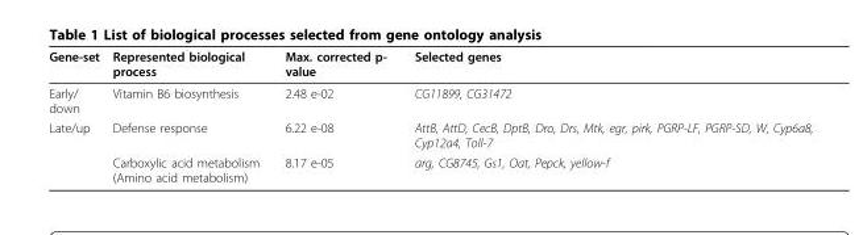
<table><thead><tr><td>Gene-set</td><td>Represented biological process</td><td>Max. corrected p- value</td><td>Selected genes</td></tr></thead><tbody><tr><td>Early/ down</td><td>Vitamin B6 biosynthesis</td><td>2.48 e-02</td><td>CG11899, CG31472</td></tr><tr><td rowspan="2">Late/up</td><td>Defense response</td><td>6.22 e-08</td><td>AttB, AttD, CecB, DptB, Dro, Drs, Mtk, egr, pirk, PGRP-LF, PGRP-SD, W, Cyp6a8, Cyp12a4, Toll-7</td></tr><tr><td>Carboxylic acid metabolism (Amino acid metabolism)</td><td>8.17 e-05</td><td>arg, CG8745, Gs1, Oat, Pepck, yellow-f</td></tr></tbody></table>